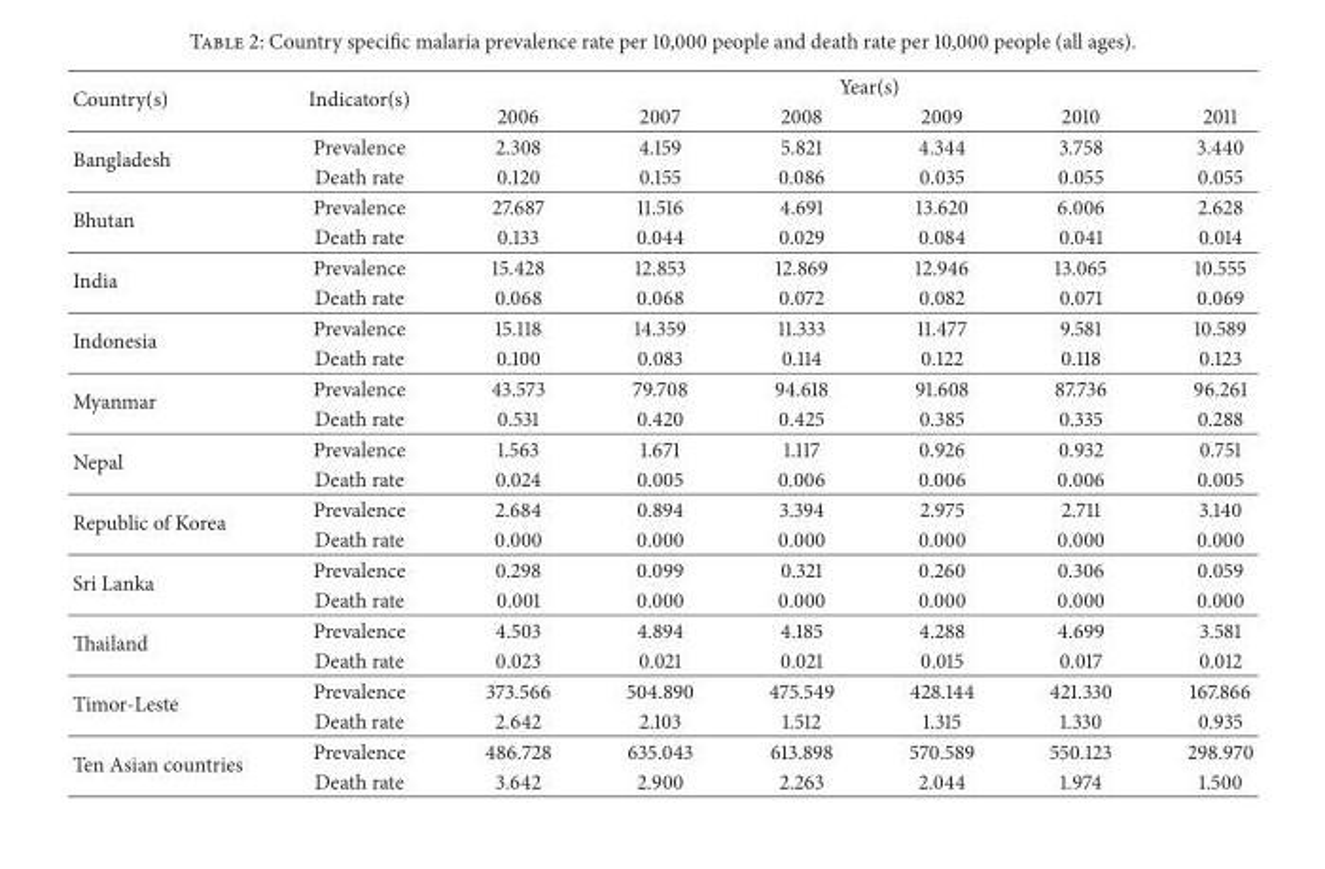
<table><thead><tr><td rowspan="2">Country(s)</td><td rowspan="2">Indicator(s)</td><td colspan="6">Year(s)</td></tr><tr><td>2006</td><td>2007</td><td>2008</td><td>2009</td><td>2010</td><td>2011</td></tr></thead><tbody><tr><td rowspan="2">Bangladesh</td><td>Prevalence</td><td>2.308</td><td>4.159</td><td>5.821</td><td>4.344</td><td>3.758</td><td>3.440</td></tr><tr><td>Death rate</td><td>0.120</td><td>0.155</td><td>0.086</td><td>0.035</td><td>0.055</td><td>0.055</td></tr><tr><td rowspan="2">Bhutan</td><td>Prevalence</td><td>27.687</td><td>11.516</td><td>4.691</td><td>13.620</td><td>6.006</td><td>2.628</td></tr><tr><td>Death rate</td><td>0.133</td><td>0.044</td><td>0.029</td><td>0.084</td><td>0.041</td><td>0.014</td></tr><tr><td rowspan="2">India</td><td>Prevalence</td><td>15.428</td><td>12.853</td><td>12.869</td><td>12.946</td><td>13.065</td><td>10.555</td></tr><tr><td>Death rate</td><td>0.068</td><td>0.068</td><td>0.072</td><td>0.082</td><td>0.071</td><td>0.069</td></tr><tr><td rowspan="2">Indonesia</td><td>Prevalence</td><td>15.118</td><td>14.359</td><td>11.333</td><td>11.477</td><td>9.581</td><td>10.589</td></tr><tr><td>Death rate</td><td>0.100</td><td>0.083</td><td>0.114</td><td>0.122</td><td>0.118</td><td>0.123</td></tr><tr><td rowspan="2">Myanmar</td><td>Prevalence</td><td>43.573</td><td>79.708</td><td>94.618</td><td>91.608</td><td>87.736</td><td>96.261</td></tr><tr><td>Death rate</td><td>0.531</td><td>0.420</td><td>0.425</td><td>0.385</td><td>0.335</td><td>0.288</td></tr><tr><td rowspan="2">Nepal</td><td>Prevalence</td><td>1.563</td><td>1.671</td><td>1.117</td><td>0.926</td><td>0.932</td><td>0.751</td></tr><tr><td>Death rate</td><td>0.024</td><td>0.005</td><td>0.006</td><td>0.006</td><td>0.006</td><td>0.005</td></tr><tr><td rowspan="2">Republic of Korea</td><td>Prevalence</td><td>2.684</td><td>0.894</td><td>3.394</td><td>2.975</td><td>2.711</td><td>3.140</td></tr><tr><td>Death rate</td><td>0.000</td><td>0.000</td><td>0.000</td><td>0.000</td><td>0.000</td><td>0.000</td></tr><tr><td rowspan="2">Sri Lanka</td><td>Prevalence</td><td>0.298</td><td>0.099</td><td>0.321</td><td>0.260</td><td>0.306</td><td>0.059</td></tr><tr><td>Death rate</td><td>0.001</td><td>0.000</td><td>0.000</td><td>0.000</td><td>0.000</td><td>0.000</td></tr><tr><td rowspan="2">Thailand</td><td>Prevalence</td><td>4.503</td><td>4.894</td><td>4.185</td><td>4.288</td><td>4.699</td><td>3.581</td></tr><tr><td>Death rate</td><td>0.023</td><td>0.021</td><td>0.021</td><td>0.015</td><td>0.017</td><td>0.012</td></tr><tr><td rowspan="2">Timor-Leste</td><td>Prevalence</td><td>373.566</td><td>504.890</td><td>475.549</td><td>428.144</td><td>421.330</td><td>167.866</td></tr><tr><td>Death rate</td><td>2.642</td><td>2.103</td><td>1.512</td><td>1.315</td><td>1.330</td><td>0.935</td></tr><tr><td rowspan="2">Ten Asian countries</td><td>Prevalence</td><td>486.728</td><td>635.043</td><td>613.898</td><td>570.589</td><td>550.123</td><td>298.970</td></tr><tr><td>Death rate</td><td>3.642</td><td>2.900</td><td>2.263</td><td>2.044</td><td>1.974</td><td>1.500</td></tr></tbody></table>